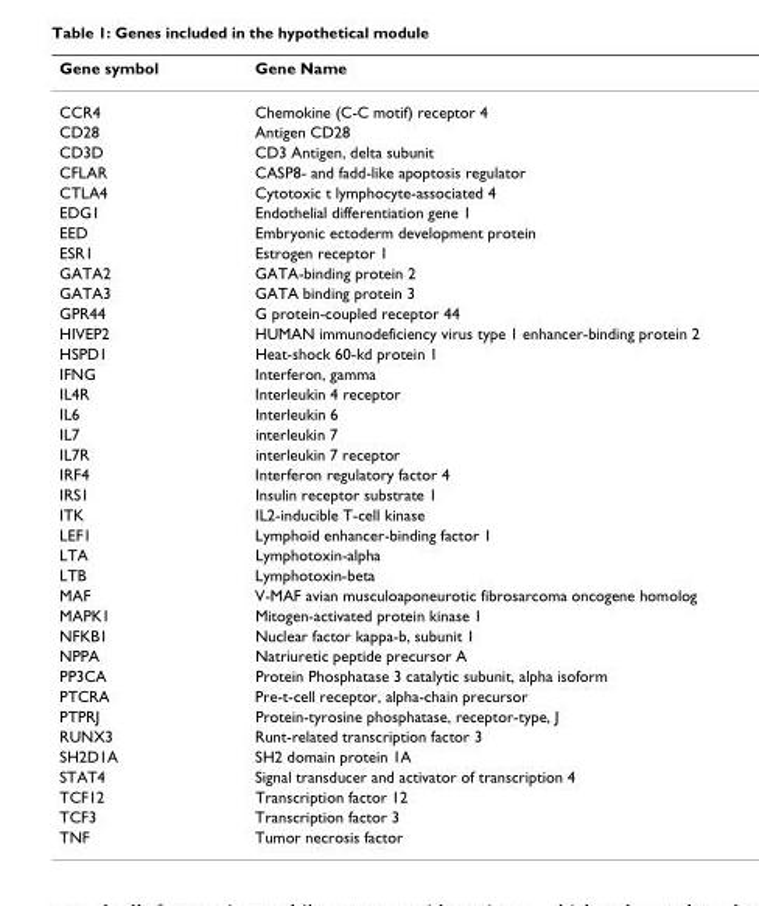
<table><thead><tr><td>Gene symbol</td><td>Gene Name</td></tr></thead><tbody><tr><td>CCR4</td><td>Chemokine (C-C motif) receptor 4</td></tr><tr><td>CD28</td><td>Antigen CD28</td></tr><tr><td>CD3D</td><td>CD3 Antigen, delta subunit</td></tr><tr><td>CFLAR</td><td>CASP8- and fadd-like apoptosis regulator</td></tr><tr><td>CTLA4</td><td>Cytotoxic t lymphocyte-associated 4</td></tr><tr><td>EDG1</td><td>Endothelial differentiation gene 1</td></tr><tr><td>EED</td><td>Embryonic ectoderm development protein</td></tr><tr><td>ESR1</td><td>Estrogen receptor 1</td></tr><tr><td>GATA2</td><td>GATA-binding protein 2</td></tr><tr><td>GATA3</td><td>GATA binding protein 3</td></tr><tr><td>GPR44</td><td>G protein-coupled receptor 44</td></tr><tr><td>HIVEP2</td><td>HUMAN immunodeficiency virus type 1 enhancer-binding protein 2</td></tr><tr><td>HSPD1</td><td>Heat-shock 60-kd protein 1</td></tr><tr><td>IFNG</td><td>Interferon, gamma</td></tr><tr><td>IL4R</td><td>Interleukin 4 receptor</td></tr><tr><td>IL6</td><td>Interleukin 6</td></tr><tr><td>IL7</td><td>interleukin 7</td></tr><tr><td>IL7R</td><td>interleukin 7 receptor</td></tr><tr><td>IRF4</td><td>Interferon regulatory factor 4</td></tr><tr><td>IRS1</td><td>Insulin receptor substrate 1</td></tr><tr><td>ITK</td><td>IL2-inducible T-cell kinase</td></tr><tr><td>LEF1</td><td>Lymphoid enhancer-binding factor 1</td></tr><tr><td>LTA</td><td>Lymphotoxin-alpha</td></tr><tr><td>LTB</td><td>Lymphotoxin-beta</td></tr><tr><td>MAF</td><td>V-MAF avian musculoaponeurotic fibrosarcoma oncogene homolog</td></tr><tr><td>MAPK1</td><td>Mitogen-activated protein kinase 1</td></tr><tr><td>NFKB1</td><td>Nuclear factor kappa-b, subunit 1</td></tr><tr><td>NPPA</td><td>Natriuretic peptide precursor A</td></tr><tr><td>PP3CA</td><td>Protein Phosphatase 3 catalytic subunit, alpha isoform</td></tr><tr><td>PTCRA</td><td>Pre-t-cell receptor, alpha-chain precursor</td></tr><tr><td>PTPRJ</td><td>Protein-tyrosine phosphatase, receptor-type, J</td></tr><tr><td>RUNX3</td><td>Runt-related transcription factor 3</td></tr><tr><td>SH2D1A</td><td>SH2 domain protein 1A</td></tr><tr><td>STAT4</td><td>Signal transducer and activator of transcription 4</td></tr><tr><td>TCF12</td><td>Transcription factor 12</td></tr><tr><td>TCF3</td><td>Transcription factor 3</td></tr><tr><td>TNF</td><td>Tumor necrosis factor</td></tr></tbody></table>